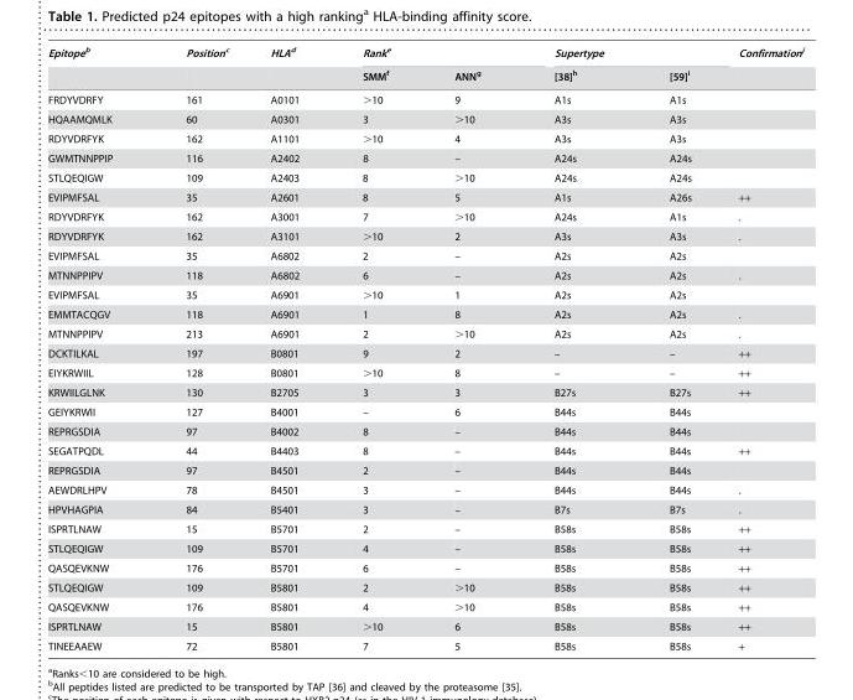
<table><thead><tr><td rowspan="2">Epitopeb</td><td rowspan="2">Positionc</td><td rowspan="2">HLAd</td><td colspan="2">Ranke</td><td colspan="2">Supertype</td><td rowspan="2">Confirmationj</td></tr><tr><td>SMM<sup>f</sup></td><td>ANN<sup>g</sup></td><td>[38]h</td><td>[59]i</td></tr></thead><tbody><tr><td>FRDYVDRFY</td><td>161</td><td>A0101</td><td>&gt;10</td><td>9</td><td>A1s</td><td>A1s</td><td></td></tr><tr><td>HQAAMQMLK</td><td>60</td><td>A0301</td><td>3</td><td>&gt;10</td><td>A3s</td><td>A3s</td><td></td></tr><tr><td>RDYVDRFYK</td><td>162</td><td>A1101</td><td>&gt;10</td><td>4</td><td>A3s</td><td>A3s</td><td></td></tr><tr><td>GWMTNNPPIP</td><td>116</td><td>A2402</td><td>8</td><td>–</td><td>A24s</td><td>A24s</td><td></td></tr><tr><td>STLQEQIGW</td><td>109</td><td>A2403</td><td>8</td><td>&gt;10</td><td>A24s</td><td>A24s</td><td></td></tr><tr><td>EVIPMFSAL</td><td>35</td><td>A2601</td><td>8</td><td>5</td><td>A1s</td><td>A26s</td><td>++</td></tr><tr><td>RDYVDRFYK</td><td>162</td><td>A3001</td><td>7</td><td>&gt;10</td><td>A24s</td><td>A1s</td><td>.</td></tr><tr><td>RDYVDRFYK</td><td>162</td><td>A3101</td><td>&gt;10</td><td>2</td><td>A3s</td><td>A3s</td><td>.</td></tr><tr><td>EVIPMFSAL</td><td>35</td><td>A6802</td><td>2</td><td>–</td><td>A2s</td><td>A2s</td><td></td></tr><tr><td>MTNNPPIPV</td><td>118</td><td>A6802</td><td>6</td><td>–</td><td>A2s</td><td>A2s</td><td>.</td></tr><tr><td>EVIPMFSAL</td><td>35</td><td>A6901</td><td>&gt;10</td><td>1</td><td>A2s</td><td>A2s</td><td></td></tr><tr><td>EMMTACQGV</td><td>118</td><td>A6901</td><td>1</td><td>8</td><td>A2s</td><td>A2s</td><td>.</td></tr><tr><td>MTNNPPIPV</td><td>213</td><td>A6901</td><td>2</td><td>&gt;10</td><td>A2s</td><td>A2s</td><td>.</td></tr><tr><td>DCKTILKAL</td><td>197</td><td>B0801</td><td>9</td><td>2</td><td>–</td><td>–</td><td>++</td></tr><tr><td>EIYKRWIIL</td><td>128</td><td>B0801</td><td>&gt;10</td><td>8</td><td>–</td><td>–</td><td>++</td></tr><tr><td>KRWIILGLNK</td><td>130</td><td>B2705</td><td>3</td><td>3</td><td>B27s</td><td>B27s</td><td>++</td></tr><tr><td>GEIYKRWII</td><td>127</td><td>B4001</td><td>–</td><td>6</td><td>B44s</td><td>B44s</td><td></td></tr><tr><td>REPRGSDIA</td><td>97</td><td>B4002</td><td>8</td><td>–</td><td>B44s</td><td>B44s</td><td></td></tr><tr><td>SEGATPQDL</td><td>44</td><td>B4403</td><td>8</td><td>–</td><td>B44s</td><td>B44s</td><td>++</td></tr><tr><td>REPRGSDIA</td><td>97</td><td>B4501</td><td>2</td><td>–</td><td>B44s</td><td>B44s</td><td></td></tr><tr><td>AEWDRLHPV</td><td>78</td><td>B4501</td><td>3</td><td>–</td><td>B44s</td><td>B44s</td><td>.</td></tr><tr><td>HPVHAGPIA</td><td>84</td><td>B5401</td><td>3</td><td>–</td><td>B7s</td><td>B7s</td><td>.</td></tr><tr><td>ISPRTLNAW</td><td>15</td><td>B5701</td><td>2</td><td>–</td><td>B58s</td><td>B58s</td><td>++</td></tr><tr><td>STLQEQIGW</td><td>109</td><td>B5701</td><td>4</td><td>–</td><td>B58s</td><td>B58s</td><td>++</td></tr><tr><td>QASQEVKNW</td><td>176</td><td>B5701</td><td>6</td><td>–</td><td>B58s</td><td>B58s</td><td>++</td></tr><tr><td>STLQEQIGW</td><td>109</td><td>B5801</td><td>2</td><td>&gt;10</td><td>B58s</td><td>B58s</td><td>++</td></tr><tr><td>QASQEVKNW</td><td>176</td><td>B5801</td><td>4</td><td>&gt;10</td><td>B58s</td><td>B58s</td><td>++</td></tr><tr><td>ISPRTLNAW</td><td>15</td><td>B5801</td><td>&gt;10</td><td>6</td><td>B58s</td><td>B58s</td><td>++</td></tr><tr><td>TINEEAAEW</td><td>72</td><td>B5801</td><td>7</td><td>5</td><td>B58s</td><td>B58s</td><td>+</td></tr></tbody></table>